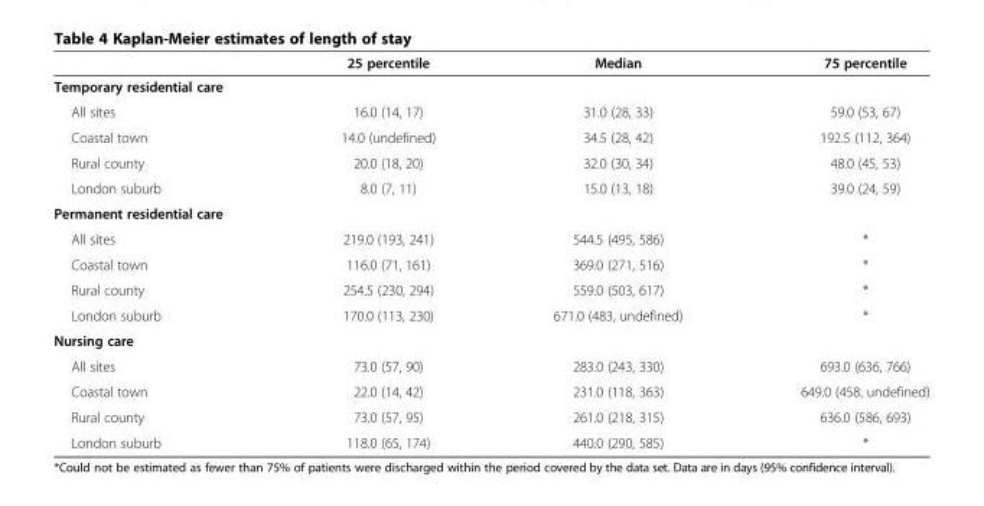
<table><thead><tr><td></td><td>25 percentile</td><td>Median</td><td>75 percentile</td></tr></thead><tbody><tr><td colspan="4">Temporary residential care</td></tr><tr><td>All sites</td><td>16.0 (14, 17)</td><td>31.0 (28, 33)</td><td>59.0 (53, 67)</td></tr><tr><td>Coastal town</td><td>14.0 (undefined)</td><td>34.5 (28, 42)</td><td>192.5 (112, 364)</td></tr><tr><td>Rural county</td><td>20.0 (18, 20)</td><td>32.0 (30, 34)</td><td>48.0 (45, 53)</td></tr><tr><td>London suburb</td><td>8.0 (7, 11)</td><td>15.0 (13, 18)</td><td>39.0 (24, 59)</td></tr><tr><td colspan="4">Permanent residential care</td></tr><tr><td>All sites</td><td>219.0 (193, 241)</td><td>544.5 (495, 586)</td><td>*</td></tr><tr><td>Coastal town</td><td>116.0 (71, 161)</td><td>369.0 (271, 516)</td><td>*</td></tr><tr><td>Rural county</td><td>254.5 (230, 294)</td><td>559.0 (503, 617)</td><td>*</td></tr><tr><td>London suburb</td><td>170.0 (113, 230)</td><td>671.0 (483, undefined)</td><td>*</td></tr><tr><td colspan="4">Nursing care</td></tr><tr><td>All sites</td><td>73.0 (57, 90)</td><td>283.0 (243, 330)</td><td>693.0 (636, 766)</td></tr><tr><td>Coastal town</td><td>22.0 (14, 42)</td><td>231.0 (118, 363)</td><td>649.0 (458, undefined)</td></tr><tr><td>Rural county</td><td>73.0 (57, 95)</td><td>261.0 (218, 315)</td><td>636.0 (586, 693)</td></tr><tr><td>London suburb</td><td>118.0 (65, 174)</td><td>440.0 (290, 585)</td><td>*</td></tr></tbody></table>